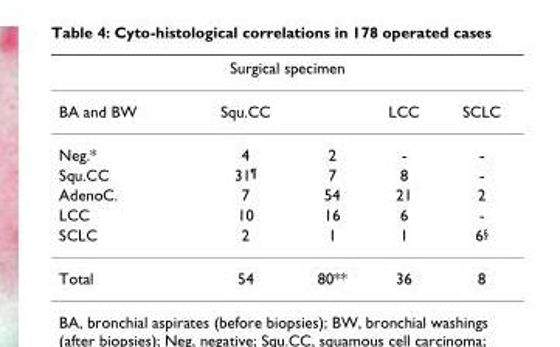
<table><thead><tr><td colspan="5">Surgical specimen</td></tr><tr><td>BA and BW</td><td>Squ.CC</td><td></td><td>LCC</td><td>SCLC</td></tr></thead><tbody><tr><td>Neg.*</td><td>4</td><td>2</td><td>-</td><td>-</td></tr><tr><td>Squ.CC</td><td>31<sup>¶</sup></td><td>7</td><td>8</td><td>-</td></tr><tr><td>AdenoC.</td><td>7</td><td>54</td><td>21</td><td>2</td></tr><tr><td>LCC</td><td>10</td><td>16</td><td>6</td><td>-</td></tr><tr><td>SCLC</td><td>2</td><td>1</td><td>1</td><td>6<sup>§</sup></td></tr><tr><td>Total</td><td>54</td><td>80**</td><td>36</td><td>8</td></tr></tbody></table>